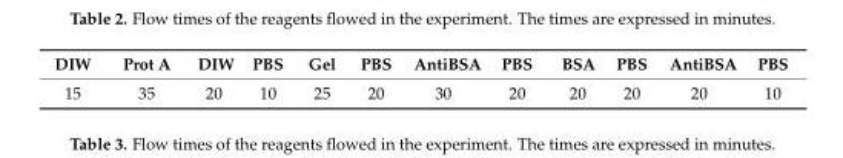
<table><thead><tr><td>DIW</td><td>Prot A</td><td>DIW</td><td>PBS</td><td>Gel</td><td>PBS</td><td>AntiBSA</td><td>PBS</td><td>BSA</td><td>PBS</td><td>AntiBSA</td><td>PBS</td></tr></thead><tbody><tr><td>15</td><td>35</td><td>20</td><td>10</td><td>25</td><td>20</td><td>30</td><td>20</td><td>20</td><td>20</td><td>20</td><td>10</td></tr></tbody></table>